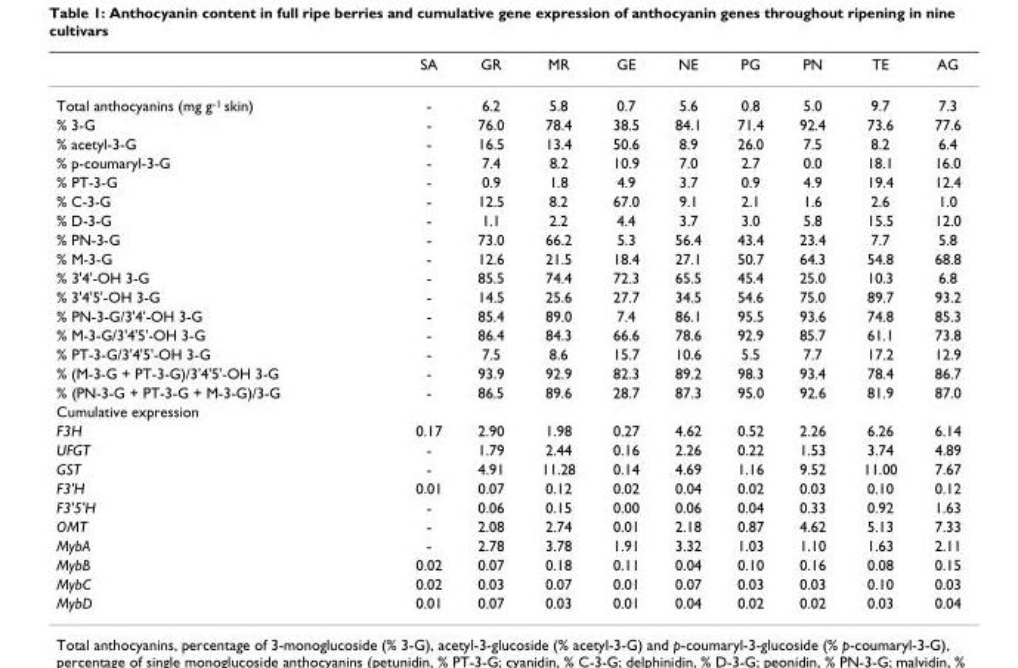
<table><thead><tr><td></td><td>SA</td><td>GR</td><td>MR</td><td>GE</td><td>NE</td><td>PG</td><td>PN</td><td>TE</td><td>AG</td></tr></thead><tbody><tr><td>Total anthocyanins (mg g<sup>-1</sup> skin)</td><td>-</td><td>6.2</td><td>5.8</td><td>0.7</td><td>5.6</td><td>0.8</td><td>5.0</td><td>9.7</td><td>7.3</td></tr><tr><td>% 3-G</td><td>-</td><td>76.0</td><td>78.4</td><td>38.5</td><td>84.1</td><td>71.4</td><td>92.4</td><td>73.6</td><td>77.6</td></tr><tr><td>% acetyl-3-G</td><td>-</td><td>16.5</td><td>13.4</td><td>50.6</td><td>8.9</td><td>26.0</td><td>7.5</td><td>8.2</td><td>6.4</td></tr><tr><td>% p-coumaryl-3-G</td><td>-</td><td>7.4</td><td>8.2</td><td>10.9</td><td>7.0</td><td>2.7</td><td>0.0</td><td>18.1</td><td>16.0</td></tr><tr><td>% PT-3-G</td><td>-</td><td>0.9</td><td>1.8</td><td>4.9</td><td>3.7</td><td>0.9</td><td>4.9</td><td>19.4</td><td>12.4</td></tr><tr><td>% C-3-G</td><td>-</td><td>12.5</td><td>8.2</td><td>67.0</td><td>9.1</td><td>2.1</td><td>1.6</td><td>2.6</td><td>1.0</td></tr><tr><td>% D-3-G</td><td>-</td><td>1.1</td><td>2.2</td><td>4.4</td><td>3.7</td><td>3.0</td><td>5.8</td><td>15.5</td><td>12.0</td></tr><tr><td>% PN-3-G</td><td>-</td><td>73.0</td><td>66.2</td><td>5.3</td><td>56.4</td><td>43.4</td><td>23.4</td><td>7.7</td><td>5.8</td></tr><tr><td>% M-3-G</td><td>-</td><td>12.6</td><td>21.5</td><td>18.4</td><td>27.1</td><td>50.7</td><td>64.3</td><td>54.8</td><td>68.8</td></tr><tr><td>% 3&#x27;4&#x27;-OH 3-G</td><td>-</td><td>85.5</td><td>74.4</td><td>72.3</td><td>65.5</td><td>45.4</td><td>25.0</td><td>10.3</td><td>6.8</td></tr><tr><td>% 3&#x27;4&#x27;5&#x27;-OH 3-G</td><td>-</td><td>14.5</td><td>25.6</td><td>27.7</td><td>34.5</td><td>54.6</td><td>75.0</td><td>89.7</td><td>93.2</td></tr><tr><td>% PN-3-G/3&#x27;4&#x27;-OH 3-G</td><td>-</td><td>85.4</td><td>89.0</td><td>7.4</td><td>86.1</td><td>95.5</td><td>93.6</td><td>74.8</td><td>85.3</td></tr><tr><td>% M-3-G/3&#x27;4&#x27;5&#x27;-OH 3-G</td><td>-</td><td>86.4</td><td>84.3</td><td>66.6</td><td>78.6</td><td>92.9</td><td>85.7</td><td>61.1</td><td>73.8</td></tr><tr><td>% PT-3-G/3&#x27;4&#x27;5&#x27;-OH 3-G</td><td>-</td><td>7.5</td><td>8.6</td><td>15.7</td><td>10.6</td><td>5.5</td><td>7.7</td><td>17.2</td><td>12.9</td></tr><tr><td>% (M-3-G + PT-3-G)/3&#x27;4&#x27;5&#x27;-OH 3-G</td><td>-</td><td>93.9</td><td>92.9</td><td>82.3</td><td>89.2</td><td>98.3</td><td>93.4</td><td>78.4</td><td>86.7</td></tr><tr><td>% (PN-3-G + PT-3-G + M-3-G)/3-G</td><td>-</td><td>86.5</td><td>89.6</td><td>28.7</td><td>87.3</td><td>95.0</td><td>92.6</td><td>81.9</td><td>87.0</td></tr><tr><td colspan="10">Cumulative expression</td></tr><tr><td>F3H</td><td>0.17</td><td>2.90</td><td>1.98</td><td>0.27</td><td>4.62</td><td>0.52</td><td>2.26</td><td>6.26</td><td>6.14</td></tr><tr><td>UFGT</td><td>-</td><td>1.79</td><td>2.44</td><td>0.16</td><td>2.26</td><td>0.22</td><td>1.53</td><td>3.74</td><td>4.89</td></tr><tr><td>GST</td><td>-</td><td>4.91</td><td>11.28</td><td>0.14</td><td>4.69</td><td>1.16</td><td>9.52</td><td>11.00</td><td>7.67</td></tr><tr><td>F3&#x27;H</td><td>0.01</td><td>0.07</td><td>0.12</td><td>0.02</td><td>0.04</td><td>0.02</td><td>0.03</td><td>0.10</td><td>0.12</td></tr><tr><td>F3&#x27;5&#x27;H</td><td>-</td><td>0.06</td><td>0.15</td><td>0.00</td><td>0.06</td><td>0.04</td><td>0.33</td><td>0.92</td><td>1.63</td></tr><tr><td>OMT</td><td>-</td><td>2.08</td><td>2.74</td><td>0.01</td><td>2.18</td><td>0.87</td><td>4.62</td><td>5.13</td><td>7.33</td></tr><tr><td>MybA</td><td>-</td><td>2.78</td><td>3.78</td><td>1.91</td><td>3.32</td><td>1.03</td><td>1.10</td><td>1.63</td><td>2.11</td></tr><tr><td>MybB</td><td>0.02</td><td>0.07</td><td>0.18</td><td>0.11</td><td>0.04</td><td>0.10</td><td>0.16</td><td>0.08</td><td>0.15</td></tr><tr><td>MybC</td><td>0.02</td><td>0.03</td><td>0.07</td><td>0.01</td><td>0.07</td><td>0.03</td><td>0.03</td><td>0.10</td><td>0.03</td></tr><tr><td>MybD</td><td>0.01</td><td>0.07</td><td>0.03</td><td>0.01</td><td>0.04</td><td>0.02</td><td>0.02</td><td>0.03</td><td>0.04</td></tr></tbody></table>